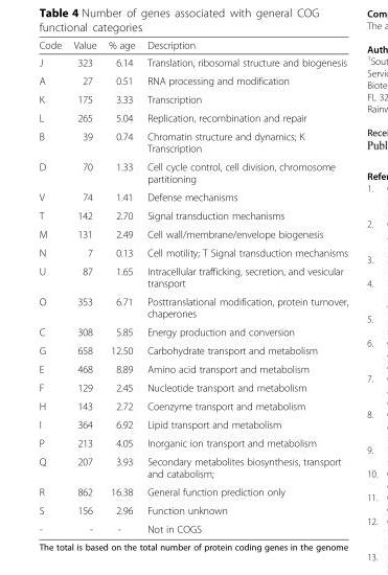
<table><thead><tr><td>Code</td><td>Value</td><td>% age</td><td>Description</td></tr></thead><tbody><tr><td>J</td><td>323</td><td>6.14</td><td>Translation, ribosomal structure and biogenesis</td></tr><tr><td>A</td><td>27</td><td>0.51</td><td>RNA processing and modification</td></tr><tr><td>K</td><td>175</td><td>3.33</td><td>Transcription</td></tr><tr><td>L</td><td>265</td><td>5.04</td><td>Replication, recombination and repair</td></tr><tr><td>B</td><td>39</td><td>0.74</td><td>Chromatin structure and dynamics; K Transcription</td></tr><tr><td>D</td><td>70</td><td>1.33</td><td>Cell cycle control, cell division, chromosome partitioning</td></tr><tr><td>V</td><td>74</td><td>1.41</td><td>Defense mechanisms</td></tr><tr><td>T</td><td>142</td><td>2.70</td><td>Signal transduction mechanisms</td></tr><tr><td>M</td><td>131</td><td>2.49</td><td>Cell wall/membrane/envelope biogenesis</td></tr><tr><td>N</td><td>7</td><td>0.13</td><td>Cell motility; T Signal transduction mechanisms</td></tr><tr><td>U</td><td>87</td><td>1.65</td><td>Intracellular trafficking, secretion, and vesicular transport</td></tr><tr><td>O</td><td>353</td><td>6.71</td><td>Posttranslational modification, protein turnover, chaperones</td></tr><tr><td>C</td><td>308</td><td>5.85</td><td>Energy production and conversion</td></tr><tr><td>G</td><td>658</td><td>12.50</td><td>Carbohydrate transport and metabolism</td></tr><tr><td>E</td><td>468</td><td>8.89</td><td>Amino acid transport and metabolism</td></tr><tr><td>F</td><td>129</td><td>2.45</td><td>Nucleotide transport and metabolism</td></tr><tr><td>H</td><td>143</td><td>2.72</td><td>Coenzyme transport and metabolism</td></tr><tr><td>I</td><td>364</td><td>6.92</td><td>Lipid transport and metabolism</td></tr><tr><td>P</td><td>213</td><td>4.05</td><td>Inorganic ion transport and metabolism</td></tr><tr><td>Q</td><td>207</td><td>3.93</td><td>Secondary metabolites biosynthesis, transport and catabolism;</td></tr><tr><td>R</td><td>862</td><td>16.38</td><td>General function prediction only</td></tr><tr><td>S</td><td>156</td><td>2.96</td><td>Function unknown</td></tr><tr><td>-</td><td>-</td><td>-</td><td>Not in COGS</td></tr></tbody></table>